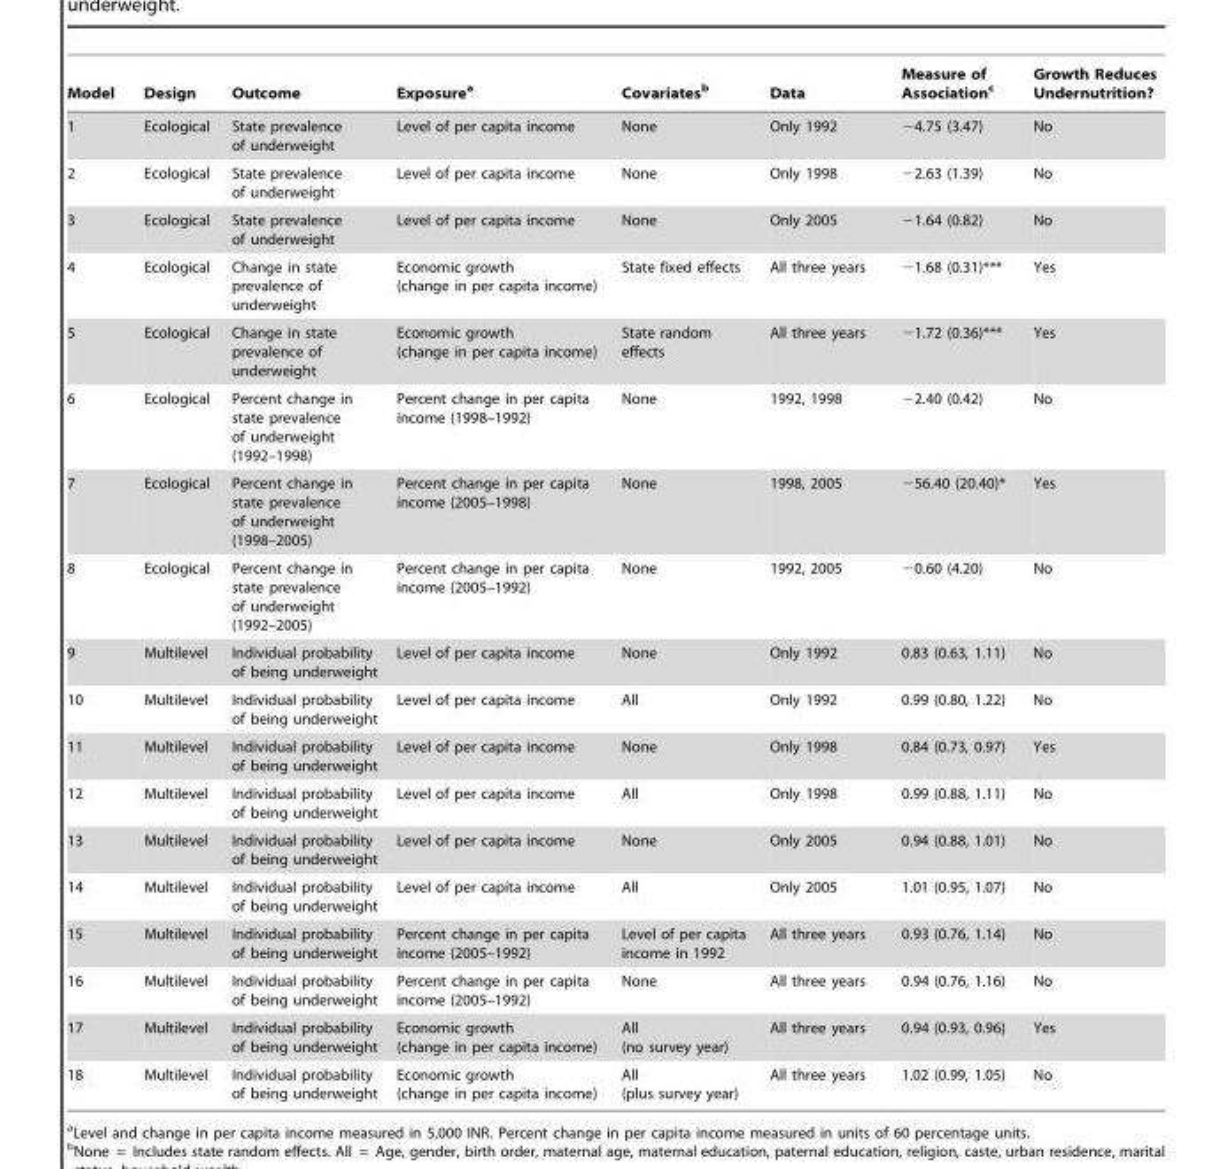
<table><thead><tr><td>Model</td><td>Design</td><td>Outcome</td><td>Exposure<sup>a</sup></td><td>Covariates<sup>b</sup></td><td>Data</td><td>Measure of Association<sup>c</sup></td><td>Growth Reduces Undernutrition?</td></tr></thead><tbody><tr><td>1</td><td>Ecological</td><td>State prevalence of underweight</td><td>Level of per capita income</td><td>None</td><td>Only 1992</td><td>−4.75 (3.47)</td><td>No</td></tr><tr><td>2</td><td>Ecological</td><td>State prevalence of underweight</td><td>Level of per capita income</td><td>None</td><td>Only 1998</td><td>−2.63 (1.39)</td><td>No</td></tr><tr><td>3</td><td>Ecological</td><td>State prevalence of underweight</td><td>Level of per capita income</td><td>None</td><td>Only 2005</td><td>−1.64 (0.82)</td><td>No</td></tr><tr><td>4</td><td>Ecological</td><td>Change in state prevalence of underweight</td><td>Economic growth (change in per capita income)</td><td>State fixed effects</td><td>All three years</td><td>−1.68 (0.31)***</td><td>Yes</td></tr><tr><td>5</td><td>Ecological</td><td>Change in state prevalence of underweight</td><td>Economic growth (change in per capita income)</td><td>State random effects</td><td>All three years</td><td>−1.72 (0.36)***</td><td>Yes</td></tr><tr><td>6</td><td>Ecological</td><td>Percent change in state prevalence of underweight (1992–1998)</td><td>Percent change in per capita income (1998–1992)</td><td>None</td><td>1992, 1998</td><td>−2.40 (0.42)</td><td>No</td></tr><tr><td>7</td><td>Ecological</td><td>Percent change in state prevalence of underweight (1998–2005)</td><td>Percent change in per capita income (2005–1998)</td><td>None</td><td>1998, 2005</td><td>−56.40 (20.40)*</td><td>Yes</td></tr><tr><td>8</td><td>Ecological</td><td>Percent change in state prevalence of underweight (1992–2005)</td><td>Percent change in per capita income (2005–1992)</td><td>None</td><td>1992, 2005</td><td>−0.60 (4.20)</td><td>No</td></tr><tr><td>9</td><td>Multilevel</td><td>Individual probability of being underweight</td><td>Level of per capita income</td><td>None</td><td>Only 1992</td><td>0.83 (0.63, 1.11)</td><td>No</td></tr><tr><td>10</td><td>Multilevel</td><td>Individual probability of being underweight</td><td>Level of per capita income</td><td>All</td><td>Only 1992</td><td>0.99 (0.80, 1.22)</td><td>No</td></tr><tr><td>11</td><td>Multilevel</td><td>Individual probability of being underweight</td><td>Level of per capita income</td><td>None</td><td>Only 1998</td><td>0.84 (0.73, 0.97)</td><td>Yes</td></tr><tr><td>12</td><td>Multilevel</td><td>Individual probability of being underweight</td><td>Level of per capita income</td><td>All</td><td>Only 1998</td><td>0.99 (0.88, 1.11)</td><td>No</td></tr><tr><td>13</td><td>Multilevel</td><td>Individual probability of being underweight</td><td>Level of per capita income</td><td>None</td><td>Only 2005</td><td>0.94 (0.88, 1.01)</td><td>No</td></tr><tr><td>14</td><td>Multilevel</td><td>Individual probability of being underweight</td><td>Level of per capita income</td><td>All</td><td>Only 2005</td><td>1.01 (0.95, 1.07)</td><td>No</td></tr><tr><td>15</td><td>Multilevel</td><td>Individual probability of being underweight</td><td>Percent change in per capita income (2005–1992)</td><td>Level of per capita income in 1992</td><td>All three years</td><td>0.93 (0.76, 1.14)</td><td>No</td></tr><tr><td>16</td><td>Multilevel</td><td>Individual probability of being underweight</td><td>Percent change in per capita income (2005–1992)</td><td>None</td><td>All three years</td><td>0.94 (0.76, 1.16)</td><td>No</td></tr><tr><td>17</td><td>Multilevel</td><td>Individual probability of being underweight</td><td>Economic growth (change in per capita income)</td><td>All (no survey year)</td><td>All three years</td><td>0.94 (0.93, 0.96)</td><td>Yes</td></tr><tr><td>18</td><td>Multilevel</td><td>Individual probability of being underweight</td><td>Economic growth (change in per capita income)</td><td>All (plus survey year)</td><td>All three years</td><td>1.02 (0.99, 1.05)</td><td>No</td></tr></tbody></table>